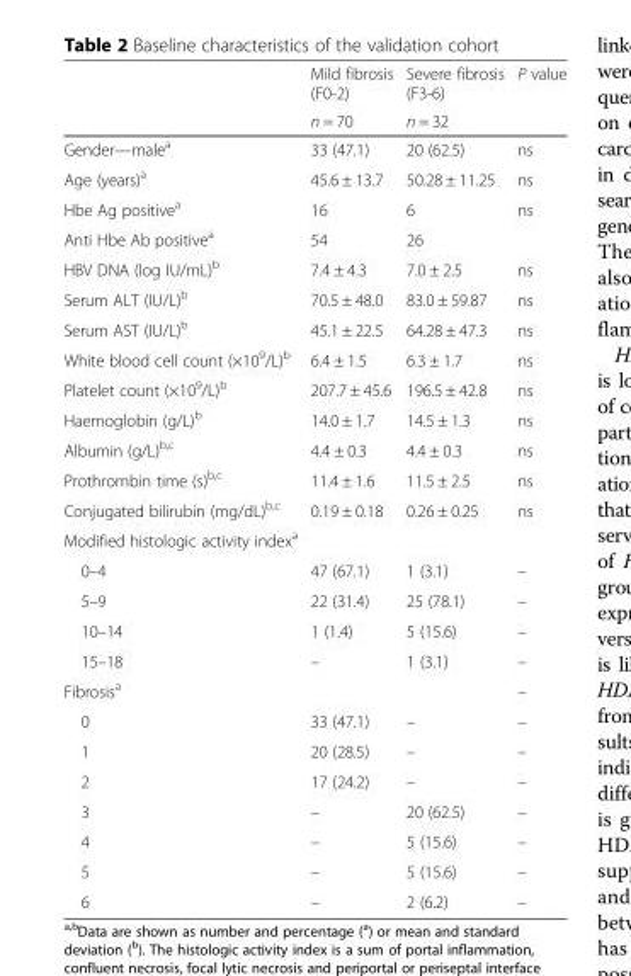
<table><thead><tr><td rowspan="2"></td><td rowspan="2">Mild fibrosis (F0-2) n = 70</td><td rowspan="2">Severe fibrosis (F3-6) n = 32</td><td rowspan="2">P value</td></tr><tr></tr></thead><tbody><tr><td>Gender—male<sup>a</sup></td><td>33 (47.1)</td><td>20 (62.5)</td><td>ns</td></tr><tr><td>Age (years)<sup>a</sup></td><td>45.6 ± 13.7</td><td>50.28 ± 11.25</td><td>ns</td></tr><tr><td>Hbe Ag positive<sup>a</sup></td><td>16</td><td>6</td><td>ns</td></tr><tr><td>Anti Hbe Ab positive<sup>a</sup></td><td>54</td><td>26</td><td></td></tr><tr><td>HBV DNA (log IU/mL)<sup>b</sup></td><td>7.4 ± 4.3</td><td>7.0 ± 2.5</td><td>ns</td></tr><tr><td>Serum ALT (IU/L)<sup>b</sup></td><td>70.5 ± 48.0</td><td>83.0 ± 59.87</td><td>ns</td></tr><tr><td>Serum AST (IU/L)<sup>b</sup></td><td>45.1 ± 22.5</td><td>64.28 ± 47.3</td><td>ns</td></tr><tr><td>White blood cell count (×10<sup>9</sup>/L)<sup>b</sup></td><td>6.4 ± 1.5</td><td>6.3 ± 1.7</td><td>ns</td></tr><tr><td>Platelet count (×10<sup>9</sup>/L)<sup>b</sup></td><td>207.7 ± 45.6</td><td>196.5 ± 42.8</td><td>ns</td></tr><tr><td>Haemoglobin (g/L)<sup>b</sup></td><td>14.0 ± 1.7</td><td>14.5 ± 1.3</td><td>ns</td></tr><tr><td>Albumin (g/L)<sup>b,c</sup></td><td>4.4 ± 0.3</td><td>4.4 ± 0.3</td><td>ns</td></tr><tr><td>Prothrombin time (s)<sup>b,c</sup></td><td>11.4 ± 1.6</td><td>11.5 ± 2.5</td><td>ns</td></tr><tr><td>Conjugated bilirubin (mg/dL)<sup>b,c</sup></td><td>0.19 ± 0.18</td><td>0.26 ± 0.25</td><td>ns</td></tr><tr><td colspan="4">Modified histologic activity index<sup>a</sup></td></tr><tr><td>0–4</td><td>47 (67.1)</td><td>1 (3.1)</td><td>–</td></tr><tr><td>5–9</td><td>22 (31.4)</td><td>25 (78.1)</td><td>–</td></tr><tr><td>10–14</td><td>1 (1.4)</td><td>5 (15.6)</td><td>–</td></tr><tr><td>15–18</td><td>–</td><td>1 (3.1)</td><td>–</td></tr><tr><td>Fibrosis<sup>a</sup></td><td></td><td></td><td>–</td></tr><tr><td>0</td><td>33 (47.1)</td><td>–</td><td>–</td></tr><tr><td>1</td><td>20 (28.5)</td><td>–</td><td>–</td></tr><tr><td>2</td><td>17 (24.2)</td><td>–</td><td>–</td></tr><tr><td>3</td><td>–</td><td>20 (62.5)</td><td>–</td></tr><tr><td>4</td><td>–</td><td>5 (15.6)</td><td>–</td></tr><tr><td>5</td><td>–</td><td>5 (15.6)</td><td>–</td></tr><tr><td>6</td><td>–</td><td>2 (6.2)</td><td>–</td></tr></tbody></table>